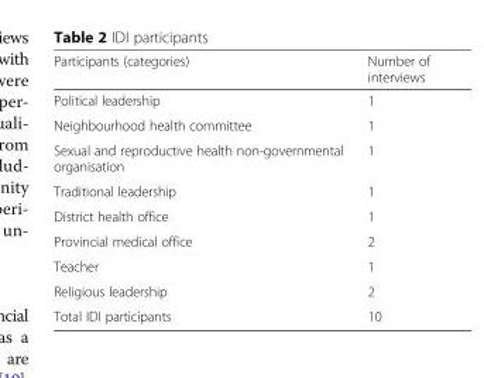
<table><thead><tr><td>Participants (categories)</td><td>Number of interviews</td></tr></thead><tbody><tr><td>Political leadership</td><td>1</td></tr><tr><td>Neighbourhood health committee</td><td>1</td></tr><tr><td>Sexual and reproductive health non-governmental organisation</td><td>1</td></tr><tr><td>Traditional leadership</td><td>1</td></tr><tr><td>District health office</td><td>1</td></tr><tr><td>Provincial medical office</td><td>2</td></tr><tr><td>Teacher</td><td>1</td></tr><tr><td>Religious leadership</td><td>2</td></tr><tr><td>Total IDI participants</td><td>10</td></tr></tbody></table>